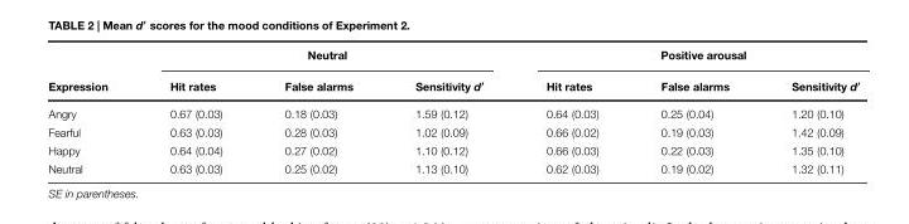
<table><thead><tr><td rowspan="2">Expression</td><td colspan="3">Neutral</td><td colspan="3">Positive arousal</td></tr><tr><td>Hit rates</td><td>False alarms</td><td>Sensitivity d′</td><td>Hit rates</td><td>False alarms</td><td>Sensitivity d′</td></tr></thead><tbody><tr><td>Angry</td><td>0.67 (0.03)</td><td>0.18 (0.03)</td><td>1.59 (0.12)</td><td>0.64 (0.03)</td><td>0.25 (0.04)</td><td>1.20 (0.10)</td></tr><tr><td>Fearful</td><td>0.63 (0.03)</td><td>0.28 (0.03)</td><td>1.02 (0.09)</td><td>0.66 (0.02)</td><td>0.19 (0.03)</td><td>1.42 (0.09)</td></tr><tr><td>Happy</td><td>0.64 (0.04)</td><td>0.27 (0.02)</td><td>1.10 (0.12)</td><td>0.66 (0.03)</td><td>0.22 (0.03)</td><td>1.35 (0.10)</td></tr><tr><td>Neutral</td><td>0.63 (0.03)</td><td>0.25 (0.02)</td><td>1.13 (0.10)</td><td>0.62 (0.03)</td><td>0.19 (0.02)</td><td>1.32 (0.11)</td></tr></tbody></table>